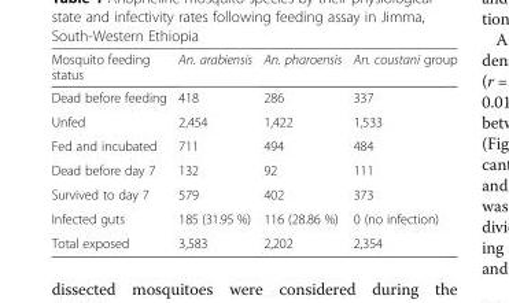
<table><thead><tr><td>Mosquito feeding status</td><td>An. arabiensis</td><td>An. pharoensis</td><td>An. coustani group</td></tr></thead><tbody><tr><td>Dead before feeding</td><td>418</td><td>286</td><td>337</td></tr><tr><td>Unfed</td><td>2,454</td><td>1,422</td><td>1,533</td></tr><tr><td>Fed and incubated</td><td>711</td><td>494</td><td>484</td></tr><tr><td>Dead before day 7</td><td>132</td><td>92</td><td>111</td></tr><tr><td>Survived to day 7</td><td>579</td><td>402</td><td>373</td></tr><tr><td>Infected guts</td><td>185 (31.95 %)</td><td>116 (28.86 %)</td><td>0 (no infection)</td></tr><tr><td>Total exposed</td><td>3,583</td><td>2,202</td><td>2,354</td></tr></tbody></table>